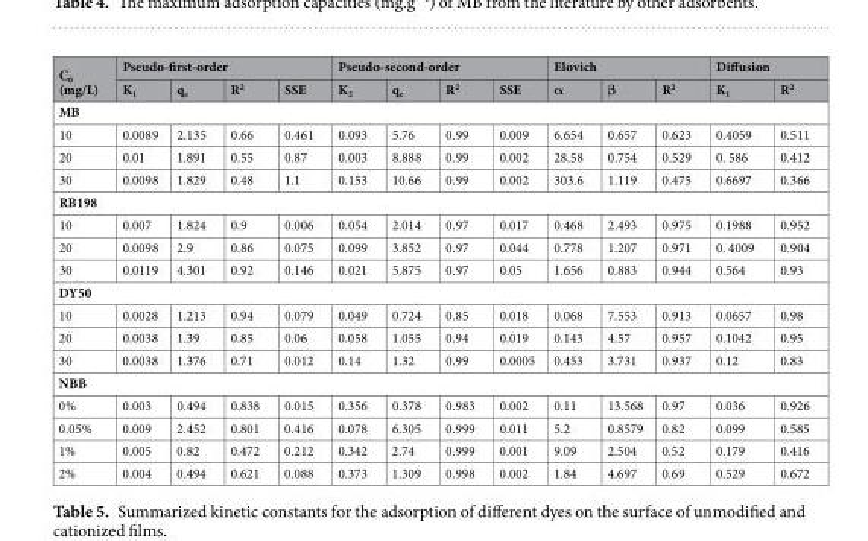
<table><thead><tr><td rowspan="2">C<sub>0</sub> (mg/L)</td><td colspan="4">Pseudo-first-order</td><td colspan="4">Pseudo-second-order</td><td colspan="3">Elovich</td><td colspan="2">Diffusion</td></tr><tr><td>K<sub>1</sub></td><td>q<sub>e</sub></td><td>R<sup>2</sup></td><td>SSE</td><td>K<sub>2</sub></td><td>q<sub>e</sub></td><td>R<sup>2</sup></td><td>SSE</td><td>α</td><td>β</td><td>R<sup>2</sup></td><td>K<sub>1</sub></td><td>R<sup>2</sup></td></tr></thead><tbody><tr><td colspan="14">MB</td></tr><tr><td>10</td><td>0.0089</td><td>2.135</td><td>0.66</td><td>0.461</td><td>0.093</td><td>5.76</td><td>0.99</td><td>0.009</td><td>6.654</td><td>0.657</td><td>0.623</td><td>0.4059</td><td>0.511</td></tr><tr><td>20</td><td>0.01</td><td>1.891</td><td>0.55</td><td>0.87</td><td>0.003</td><td>8.888</td><td>0.99</td><td>0.002</td><td>28.58</td><td>0.754</td><td>0.529</td><td>0. 586</td><td>0.412</td></tr><tr><td>30</td><td>0.0098</td><td>1.829</td><td>0.48</td><td>1.1</td><td>0.153</td><td>10.66</td><td>0.99</td><td>0.002</td><td>303.6</td><td>1.119</td><td>0.475</td><td>0.6697</td><td>0.366</td></tr><tr><td colspan="14">RB198</td></tr><tr><td>10</td><td>0.007</td><td>1.824</td><td>0.9</td><td>0.006</td><td>0.054</td><td>2.014</td><td>0.97</td><td>0.017</td><td>0.468</td><td>2.493</td><td>0.975</td><td>0.1988</td><td>0.952</td></tr><tr><td>20</td><td>0.0098</td><td>2.9</td><td>0.86</td><td>0.075</td><td>0.099</td><td>3.852</td><td>0.97</td><td>0.044</td><td>0.778</td><td>1.207</td><td>0.971</td><td>0. 4009</td><td>0.904</td></tr><tr><td>30</td><td>0.0119</td><td>4.301</td><td>0.92</td><td>0.146</td><td>0.021</td><td>5.875</td><td>0.97</td><td>0.05</td><td>1.656</td><td>0.883</td><td>0.944</td><td>0.564</td><td>0.93</td></tr><tr><td colspan="14">DY50</td></tr><tr><td>10</td><td>0.0028</td><td>1.213</td><td>0.94</td><td>0.079</td><td>0.049</td><td>0.724</td><td>0.85</td><td>0.018</td><td>0.068</td><td>7.553</td><td>0.913</td><td>0.0657</td><td>0.98</td></tr><tr><td>20</td><td>0.0038</td><td>1.39</td><td>0.85</td><td>0.06</td><td>0.058</td><td>1.055</td><td>0.94</td><td>0.019</td><td>0.143</td><td>4.57</td><td>0.957</td><td>0.1042</td><td>0.95</td></tr><tr><td>30</td><td>0.0038</td><td>1.376</td><td>0.71</td><td>0.012</td><td>0.14</td><td>1.32</td><td>0.99</td><td>0.0005</td><td>0.453</td><td>3.731</td><td>0.937</td><td>0.12</td><td>0.83</td></tr><tr><td colspan="14">NBB</td></tr><tr><td>0%</td><td>0.003</td><td>0.494</td><td>0.838</td><td>0.015</td><td>0.356</td><td>0.378</td><td>0.983</td><td>0.002</td><td>0.11</td><td>13.568</td><td>0.97</td><td>0.036</td><td>0.926</td></tr><tr><td>0.05%</td><td>0.009</td><td>2.452</td><td>0.801</td><td>0.416</td><td>0.078</td><td>6.305</td><td>0.999</td><td>0.011</td><td>5.2</td><td>0.8579</td><td>0.82</td><td>0.099</td><td>0.585</td></tr><tr><td>1%</td><td>0.005</td><td>0.82</td><td>0.472</td><td>0.212</td><td>0.342</td><td>2.74</td><td>0.999</td><td>0.001</td><td>9.09</td><td>2.504</td><td>0.52</td><td>0.179</td><td>0.416</td></tr><tr><td>2%</td><td>0.004</td><td>0.494</td><td>0.621</td><td>0.088</td><td>0.373</td><td>1.309</td><td>0.998</td><td>0.002</td><td>1.84</td><td>4.697</td><td>0.69</td><td>0.529</td><td>0.672</td></tr></tbody></table>